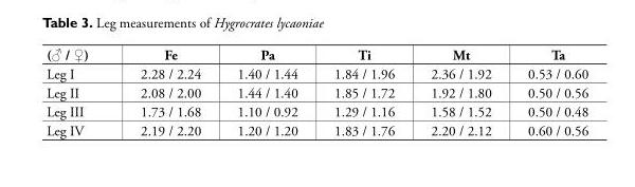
<table><thead><tr><td>(♂ / ♀)</td><td>Fe</td><td>Pa</td><td>Ti</td><td>Mt</td><td>Ta</td></tr></thead><tbody><tr><td>Leg I</td><td>2.28 / 2.24</td><td>1.40 / 1.44</td><td>1.84 / 1.96</td><td>2.36 / 1.92</td><td>0.53 / 0.60</td></tr><tr><td>Leg II</td><td>2.08 / 2.00</td><td>1.44 / 1.40</td><td>1.85 / 1.72</td><td>1.92 / 1.80</td><td>0.50 / 0.56</td></tr><tr><td>Leg III</td><td>1.73 / 1.68</td><td>1.10 / 0.92</td><td>1.29 / 1.16</td><td>1.58 / 1.52</td><td>0.50 / 0.48</td></tr><tr><td>Leg IV</td><td>2.19 / 2.20</td><td>1.20 / 1.20</td><td>1.83 / 1.76</td><td>2.20 / 2.12</td><td>0.60 / 0.56</td></tr></tbody></table>